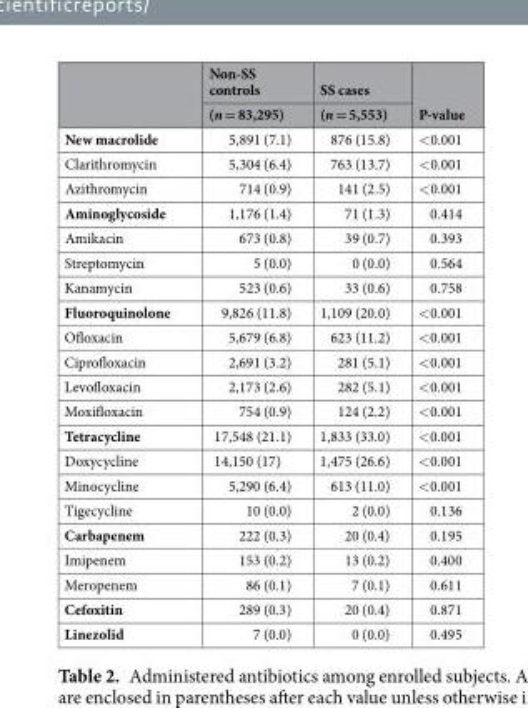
<table><thead><tr><td rowspan="2"></td><td rowspan="2">Non-SS controls (n = 83,295)</td><td rowspan="2">SS cases (n = 5,553)</td><td rowspan="2">P-value</td></tr><tr></tr></thead><tbody><tr><td>New macrolide</td><td>5,891 (7.1)</td><td>876 (15.8)</td><td>&lt;0.001</td></tr><tr><td>Clarithromycin</td><td>5,304 (6.4)</td><td>763 (13.7)</td><td>&lt;0.001</td></tr><tr><td>Azithromycin</td><td>714 (0.9)</td><td>141 (2.5)</td><td>&lt;0.001</td></tr><tr><td>Aminoglycoside</td><td>1,176 (1.4)</td><td>71 (1.3)</td><td>0.414</td></tr><tr><td>Amikacin</td><td>673 (0.8)</td><td>39 (0.7)</td><td>0.393</td></tr><tr><td>Streptomycin</td><td>5 (0.0)</td><td>0 (0.0)</td><td>0.564</td></tr><tr><td>Kanamycin</td><td>523 (0.6)</td><td>33 (0.6)</td><td>0.758</td></tr><tr><td>Fluoroquinolone</td><td>9,826 (11.8)</td><td>1,109 (20.0)</td><td>&lt;0.001</td></tr><tr><td>Ofloxacin</td><td>5,679 (6.8)</td><td>623 (11.2)</td><td>&lt;0.001</td></tr><tr><td>Ciprofloxacin</td><td>2,691 (3.2)</td><td>281 (5.1)</td><td>&lt;0.001</td></tr><tr><td>Levofloxacin</td><td>2,173 (2.6)</td><td>282 (5.1)</td><td>&lt;0.001</td></tr><tr><td>Moxifloxacin</td><td>754 (0.9)</td><td>124 (2.2)</td><td>&lt;0.001</td></tr><tr><td>Tetracycline</td><td>17,548 (21.1)</td><td>1,833 (33.0)</td><td>&lt;0.001</td></tr><tr><td>Doxycycline</td><td>14,150 (17)</td><td>1,475 (26.6)</td><td>&lt;0.001</td></tr><tr><td>Minocycline</td><td>5,290 (6.4)</td><td>613 (11.0)</td><td>&lt;0.001</td></tr><tr><td>Tigecycline</td><td>10 (0.0)</td><td>2 (0.0)</td><td>0.136</td></tr><tr><td>Carbapenem</td><td>222 (0.3)</td><td>20 (0.4)</td><td>0.195</td></tr><tr><td>Imipenem</td><td>153 (0.2)</td><td>13 (0.2)</td><td>0.400</td></tr><tr><td>Meropenem</td><td>86 (0.1)</td><td>7 (0.1)</td><td>0.611</td></tr><tr><td>Cefoxitin</td><td>289 (0.3)</td><td>20 (0.4)</td><td>0.871</td></tr><tr><td>Linezolid</td><td>7 (0.0)</td><td>0 (0.0)</td><td>0.495</td></tr></tbody></table>